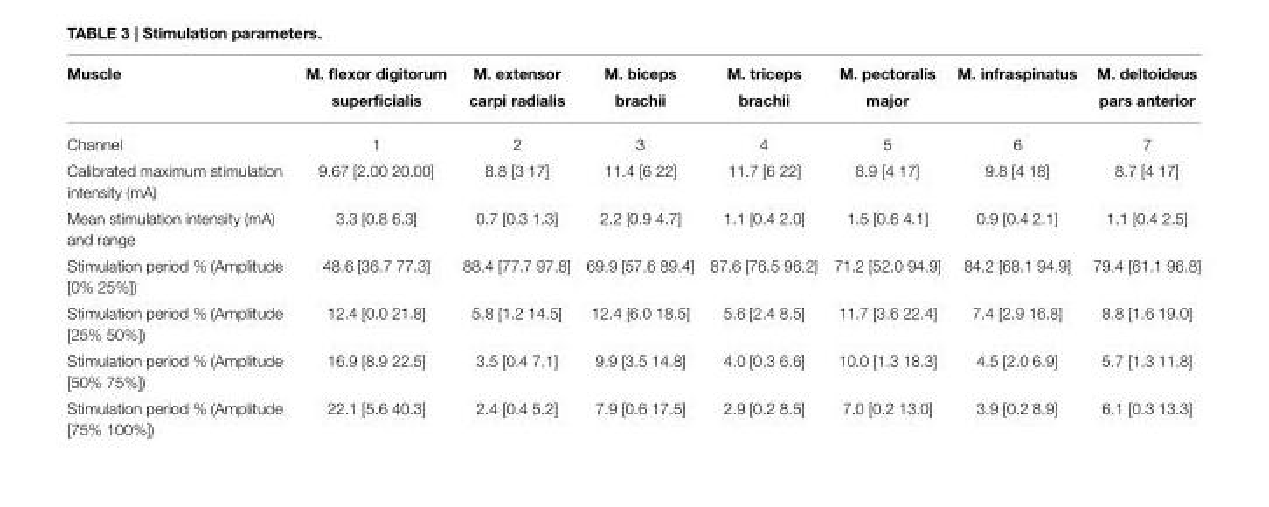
<table><thead><tr><td>Muscle</td><td>M. flexor digitorum superficialis</td><td>M. extensor carpi radialis</td><td>M. biceps brachii</td><td>M. triceps brachii</td><td>M. pectoralis major</td><td>M. infraspinatus</td><td>M. deltoideus pars anterior</td></tr></thead><tbody><tr><td>Channel</td><td>1</td><td>2</td><td>3</td><td>4</td><td>5</td><td>6</td><td>7</td></tr><tr><td>Calibrated maximum stimulation intensity (mA)</td><td>9.67 [2.00 20.00]</td><td>8.8 [3 17]</td><td>11.4 [6 22]</td><td>11.7 [6 22]</td><td>8.9 [4 17]</td><td>9.8 [4 18]</td><td>8.7 [4 17]</td></tr><tr><td>Mean stimulation intensity (mA) and range</td><td>3.3 [0.8 6.3]</td><td>0.7 [0.3 1.3]</td><td>2.2 [0.9 4.7]</td><td>1.1 [0.4 2.0]</td><td>1.5 [0.6 4.1]</td><td>0.9 [0.4 2.1]</td><td>1.1 [0.4 2.5]</td></tr><tr><td>Stimulation period % (Amplitude [0% 25%])</td><td>48.6 [36.7 77.3]</td><td>88.4 [77.7 97.8]</td><td>69.9 [57.6 89.4]</td><td>87.6 [76.5 96.2]</td><td>71.2 [52.0 94.9]</td><td>84.2 [68.1 94.9]</td><td>79.4 [61.1 96.8]</td></tr><tr><td>Stimulation period % (Amplitude [25% 50%])</td><td>12.4 [0.0 21.8]</td><td>5.8 [1.2 14.5]</td><td>12.4 [6.0 18.5]</td><td>5.6 [2.4 8.5]</td><td>11.7 [3.6 22.4]</td><td>7.4 [2.9 16.8]</td><td>8.8 [1.6 19.0]</td></tr><tr><td>Stimulation period % (Amplitude [50% 75%])</td><td>16.9 [8.9 22.5]</td><td>3.5 [0.4 7.1]</td><td>9.9 [3.5 14.8]</td><td>4.0 [0.3 6.6]</td><td>10.0 [1.3 18.3]</td><td>4.5 [2.0 6.9]</td><td>5.7 [1.3 11.8]</td></tr><tr><td>Stimulation period % (Amplitude [75% 100%])</td><td>22.1 [5.6 40.3]</td><td>2.4 [0.4 5.2]</td><td>7.9 [0.6 17.5]</td><td>2.9 [0.2 8.5]</td><td>7.0 [0.2 13.0]</td><td>3.9 [0.2 8.9]</td><td>6.1 [0.3 13.3]</td></tr></tbody></table>